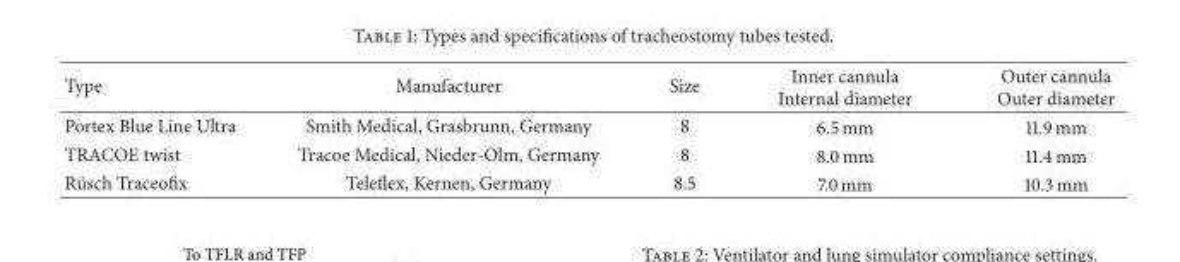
<table><thead><tr><td>Type</td><td>Manufacturer</td><td>Size</td><td>Inner cannula Internal diameter</td><td>Outer cannula Outer diameter</td></tr></thead><tbody><tr><td>Portex Blue Line Ultra</td><td>Smith Medical, Grasbrunn, Germany</td><td>8</td><td>6.5 mm</td><td>11.9 mm</td></tr><tr><td>TRACOE twist</td><td>Tracoe Medical, Nieder-Olm, Germany</td><td>8</td><td>8.0 mm</td><td>11.4 mm</td></tr><tr><td>R¨usch Traceofix</td><td>Teleflex, Kernen, Germany</td><td>8.5</td><td>7.0 mm</td><td>10.3 mm</td></tr></tbody></table>